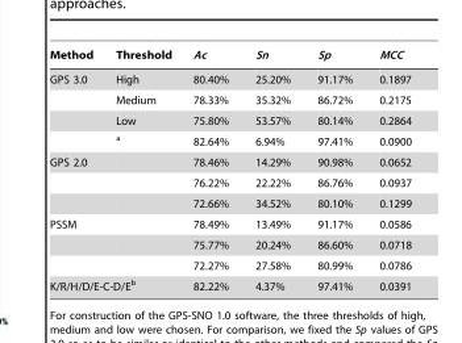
<table><thead><tr><td>Method</td><td>Threshold</td><td>Ac</td><td>Sn</td><td>Sp</td><td>MCC</td></tr></thead><tbody><tr><td rowspan="4">GPS 3.0</td><td>High</td><td>80.40%</td><td>25.20%</td><td>91.17%</td><td>0.1897</td></tr><tr><td>Medium</td><td>78.33%</td><td>35.32%</td><td>86.72%</td><td>0.2175</td></tr><tr><td>Low</td><td>75.80%</td><td>53.57%</td><td>80.14%</td><td>0.2864</td></tr><tr><td>a</td><td>82.64%</td><td>6.94%</td><td>97.41%</td><td>0.0900</td></tr><tr><td rowspan="3">GPS 2.0</td><td></td><td>78.46%</td><td>14.29%</td><td>90.98%</td><td>0.0652</td></tr><tr><td></td><td>76.22%</td><td>22.22%</td><td>86.76%</td><td>0.0937</td></tr><tr><td></td><td>72.66%</td><td>34.52%</td><td>80.10%</td><td>0.1299</td></tr><tr><td rowspan="3">PSSM</td><td></td><td>78.49%</td><td>13.49%</td><td>91.17%</td><td>0.0586</td></tr><tr><td></td><td>75.77%</td><td>20.24%</td><td>86.60%</td><td>0.0718</td></tr><tr><td></td><td>72.27%</td><td>27.58%</td><td>80.99%</td><td>0.0786</td></tr><tr><td colspan="2">K/R/H/D/E-C-D/E<sup>b</sup></td><td>82.22%</td><td>4.37%</td><td>97.41%</td><td>0.0391</td></tr></tbody></table>